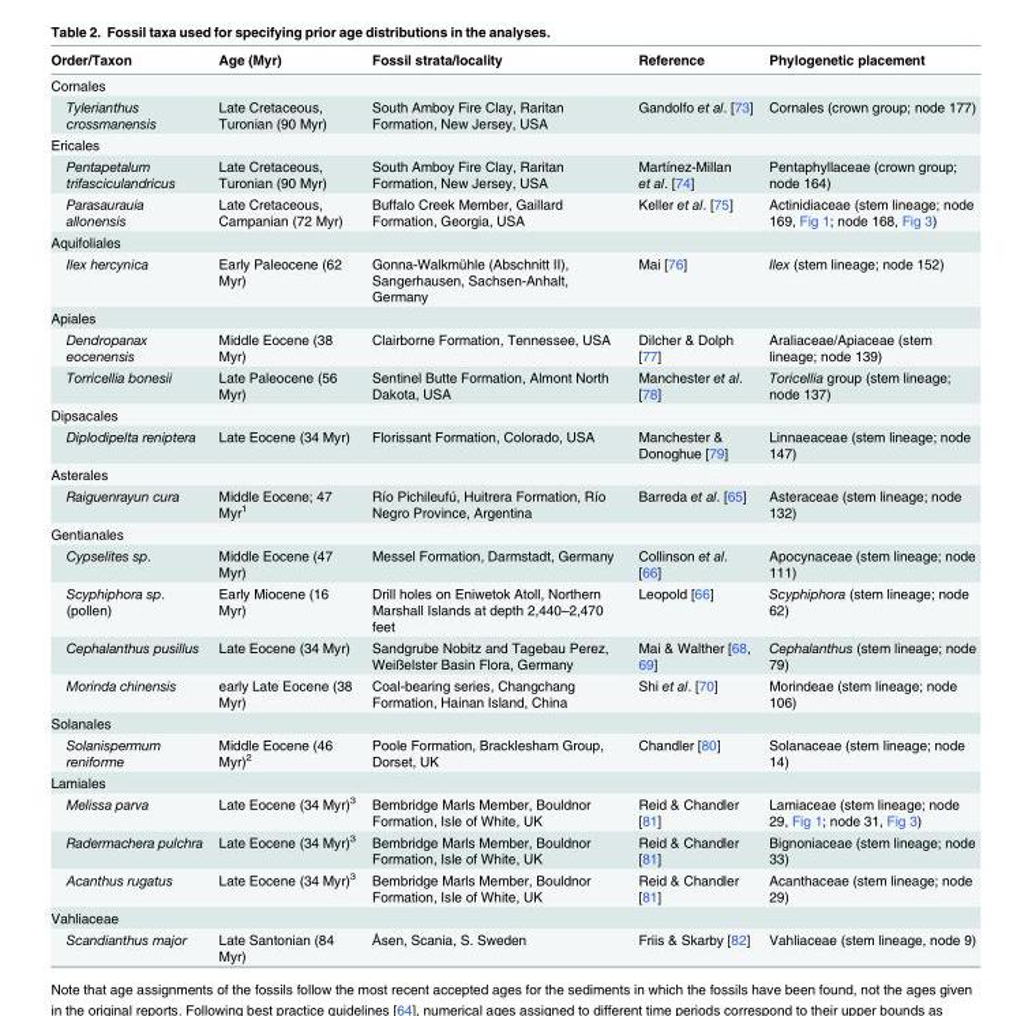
<table><thead><tr><td>Order/Taxon</td><td>Age (Myr)</td><td>Fossil strata/locality</td><td>Reference</td><td>Phylogenetic placement</td></tr></thead><tbody><tr><td colspan="5">Cornales</td></tr><tr><td>Tylerianthus crossmanensis</td><td>Late Cretaceous, Turonian (90 Myr)</td><td>South Amboy Fire Clay, Raritan Formation, New Jersey, USA</td><td>Gandolfo et al. [73]</td><td>Cornales (crown group; node 177)</td></tr><tr><td colspan="5">Ericales</td></tr><tr><td>Pentapetalum trifasciculandricus</td><td>Late Cretaceous, Turonian (90 Myr)</td><td>South Amboy Fire Clay, Raritan Formation, New Jersey, USA</td><td>Martínez-Millan et al. [74]</td><td>Pentaphyllaceae (crown group; node 164)</td></tr><tr><td>Parasaurauia allonensis</td><td>Late Cretaceous, Campanian (72 Myr)</td><td>Buffalo Creek Member, Gaillard Formation, Georgia, USA</td><td>Keller et al. [75]</td><td>Actinidiaceae (stem lineage; node 169, Fig 1; node 168, Fig 3)</td></tr><tr><td colspan="5">Aquifoliales</td></tr><tr><td>Ilex hercynica</td><td>Early Paleocene (62 Myr)</td><td>Gonna-Walkmühle (Abschnitt II), Sangerhausen, Sachsen-Anhalt, Germany</td><td>Mai [76]</td><td>Ilex (stem lineage; node 152)</td></tr><tr><td colspan="5">Apiales</td></tr><tr><td>Dendropanax eocenensis</td><td>Middle Eocene (38 Myr)</td><td>Clairborne Formation, Tennessee, USA</td><td>Dilcher &amp; Dolph [77]</td><td>Araliaceae/Apiaceae (stem lineage; node 139)</td></tr><tr><td>Torricellia bonesii</td><td>Late Paleocene (56 Myr)</td><td>Sentinel Butte Formation, Almont North Dakota, USA</td><td>Manchester et al. [78]</td><td>Toricellia group (stem lineage; node 137)</td></tr><tr><td colspan="5">Dipsacales</td></tr><tr><td>Diplodipelta reniptera</td><td>Late Eocene (34 Myr)</td><td>Florissant Formation, Colorado, USA</td><td>Manchester &amp; Donoghue [79]</td><td>Linnaeaceae (stem lineage; node 147)</td></tr><tr><td colspan="5">Asterales</td></tr><tr><td>Raiguenrayun cura</td><td>Middle Eocene; 47 Myr<sup>1</sup></td><td>Río Pichileufú, Huitrera Formation, Río Negro Province, Argentina</td><td>Barreda et al. [65]</td><td>Asteraceae (stem lineage; node 132)</td></tr><tr><td colspan="5">Gentianales</td></tr><tr><td>Cypselites sp.</td><td>Middle Eocene (47 Myr)</td><td>Messel Formation, Darmstadt, Germany</td><td>Collinson et al. [66]</td><td>Apocynaceae (stem lineage; node 111)</td></tr><tr><td>Scyphiphora sp. (pollen)</td><td>Early Miocene (16 Myr)</td><td>Drill holes on Eniwetok Atoll, Northern Marshall Islands at depth 2,440–2,470 feet</td><td>Leopold [66]</td><td>Scyphiphora (stem lineage; node 62)</td></tr><tr><td>Cephalanthus pusillus</td><td>Late Eocene (34 Myr)</td><td>Sandgrube Nobitz and Tagebau Perez, Weißelster Basin Flora, Germany</td><td>Mai &amp; Walther [68, 69]</td><td>Cephalanthus (stem lineage; node 79)</td></tr><tr><td>Morinda chinensis</td><td>early Late Eocene (38 Myr)</td><td>Coal-bearing series, Changchang Formation, Hainan Island, China</td><td>Shi et al. [70]</td><td>Morindeae (stem lineage; node 106)</td></tr><tr><td colspan="5">Solanales</td></tr><tr><td>Solanispermum reniforme</td><td>Middle Eocene (46 Myr)<sup>2</sup></td><td>Poole Formation, Bracklesham Group, Dorset, UK</td><td>Chandler [80]</td><td>Solanaceae (stem lineage; node 14)</td></tr><tr><td colspan="5">Lamiales</td></tr><tr><td>Melissa parva</td><td>Late Eocene (34 Myr)<sup>3</sup></td><td>Bembridge Marls Member, Bouldnor Formation, Isle of White, UK</td><td>Reid &amp; Chandler [81]</td><td>Lamiaceae (stem lineage; node 29, Fig 1; node 31, Fig 3)</td></tr><tr><td>Radermachera pulchra</td><td>Late Eocene (34 Myr)<sup>3</sup></td><td>Bembridge Marls Member, Bouldnor Formation, Isle of White, UK</td><td>Reid &amp; Chandler [81]</td><td>Bignoniaceae (stem lineage; node 33)</td></tr><tr><td>Acanthus rugatus</td><td>Late Eocene (34 Myr)<sup>3</sup></td><td>Bembridge Marls Member, Bouldnor Formation, Isle of White, UK</td><td>Reid &amp; Chandler [81]</td><td>Acanthaceae (stem lineage; node 29)</td></tr><tr><td colspan="5">Vahliaceae</td></tr><tr><td>Scandianthus major</td><td>Late Santonian (84 Myr)</td><td>Åsen, Scania, S. Sweden</td><td>Friis &amp; Skarby [82]</td><td>Vahliaceae (stem lineage, node 9)</td></tr></tbody></table>